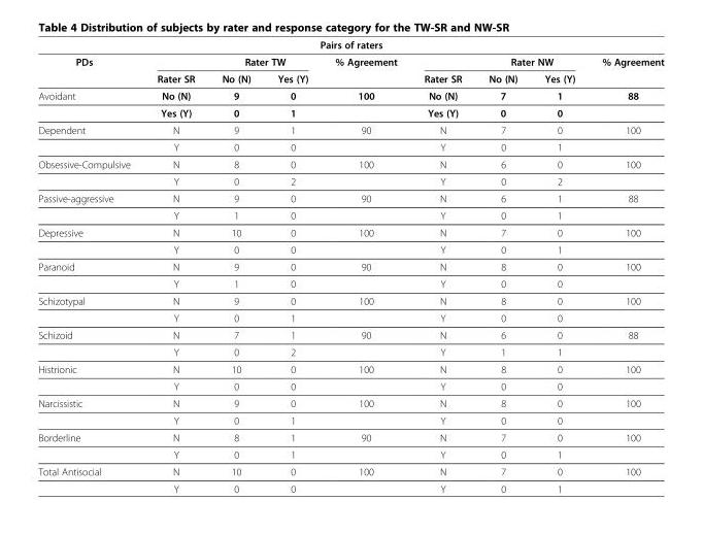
<table><thead><tr><td colspan="9">Pairs of raters</td></tr><tr><td rowspan="2">PDs</td><td rowspan="2">Rater SR</td><td colspan="2">Rater TW</td><td rowspan="2">% Agreement</td><td rowspan="2">Rater SR</td><td colspan="2">Rater NW</td><td rowspan="2">% Agreement</td></tr><tr><td>No (N)</td><td>Yes (Y)</td><td>No (N)</td><td>Yes (Y)</td></tr></thead><tbody><tr><td rowspan="2">Avoidant</td><td>No (N)</td><td>9</td><td>0</td><td>100</td><td>No (N)</td><td>7</td><td>1</td><td>88</td></tr><tr><td>Yes (Y)</td><td>0</td><td>1</td><td></td><td>Yes (Y)</td><td>0</td><td>0</td><td></td></tr><tr><td rowspan="2">Dependent</td><td>N</td><td>9</td><td>1</td><td>90</td><td>N</td><td>7</td><td>0</td><td>100</td></tr><tr><td>Y</td><td>0</td><td>0</td><td></td><td>Y</td><td>0</td><td>1</td><td></td></tr><tr><td rowspan="2">Obsessive-Compulsive</td><td>N</td><td>8</td><td>0</td><td>100</td><td>N</td><td>6</td><td>0</td><td>100</td></tr><tr><td>Y</td><td>0</td><td>2</td><td></td><td>Y</td><td>0</td><td>2</td><td></td></tr><tr><td rowspan="2">Passive-aggressive</td><td>N</td><td>9</td><td>0</td><td>90</td><td>N</td><td>6</td><td>1</td><td>88</td></tr><tr><td>Y</td><td>1</td><td>0</td><td></td><td>Y</td><td>0</td><td>1</td><td></td></tr><tr><td rowspan="2">Depressive</td><td>N</td><td>10</td><td>0</td><td>100</td><td>N</td><td>7</td><td>0</td><td>100</td></tr><tr><td>Y</td><td>0</td><td>0</td><td></td><td>Y</td><td>0</td><td>1</td><td></td></tr><tr><td rowspan="2">Paranoid</td><td>N</td><td>9</td><td>0</td><td>90</td><td>N</td><td>8</td><td>0</td><td>100</td></tr><tr><td>Y</td><td>1</td><td>0</td><td></td><td>Y</td><td>0</td><td>0</td><td></td></tr><tr><td rowspan="2">Schizotypal</td><td>N</td><td>9</td><td>0</td><td>100</td><td>N</td><td>8</td><td>0</td><td>100</td></tr><tr><td>Y</td><td>0</td><td>1</td><td></td><td>Y</td><td>0</td><td>0</td><td></td></tr><tr><td rowspan="2">Schizoid</td><td>N</td><td>7</td><td>1</td><td>90</td><td>N</td><td>6</td><td>0</td><td>88</td></tr><tr><td>Y</td><td>0</td><td>2</td><td></td><td>Y</td><td>1</td><td>1</td><td></td></tr><tr><td rowspan="2">Histrionic</td><td>N</td><td>10</td><td>0</td><td>100</td><td>N</td><td>8</td><td>0</td><td>100</td></tr><tr><td>Y</td><td>0</td><td>0</td><td></td><td>Y</td><td>0</td><td>0</td><td></td></tr><tr><td rowspan="2">Narcissistic</td><td>N</td><td>9</td><td>0</td><td>100</td><td>N</td><td>8</td><td>0</td><td>100</td></tr><tr><td>Y</td><td>0</td><td>1</td><td></td><td>Y</td><td>0</td><td>0</td><td></td></tr><tr><td rowspan="2">Borderline</td><td>N</td><td>8</td><td>1</td><td>90</td><td>N</td><td>7</td><td>0</td><td>100</td></tr><tr><td>Y</td><td>0</td><td>1</td><td></td><td>Y</td><td>0</td><td>1</td><td></td></tr><tr><td rowspan="2">Total Antisocial</td><td>N</td><td>10</td><td>0</td><td>100</td><td>N</td><td>7</td><td>0</td><td>100</td></tr><tr><td>Y</td><td>0</td><td>0</td><td></td><td>Y</td><td>0</td><td>1</td><td></td></tr></tbody></table>